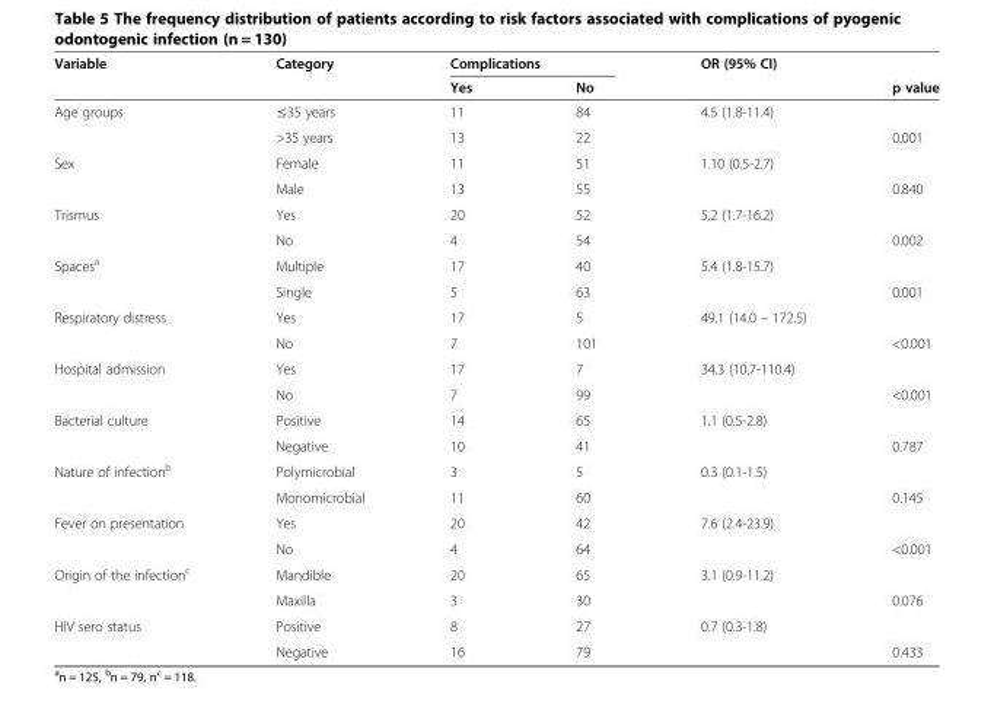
<table><thead><tr><td rowspan="2">Variable</td><td rowspan="2">Category</td><td colspan="2">Complications</td><td rowspan="2">OR (95% CI)</td><td rowspan="2">p value</td></tr><tr><td>Yes</td><td>No</td></tr></thead><tbody><tr><td rowspan="2">Age groups</td><td>≤35 years</td><td>11</td><td>84</td><td>4.5 (1.8-11.4)</td><td></td></tr><tr><td>&gt;35 years</td><td>13</td><td>22</td><td></td><td>0.001</td></tr><tr><td rowspan="2">Sex</td><td>Female</td><td>11</td><td>51</td><td>1.10 (0.5-2.7)</td><td></td></tr><tr><td>Male</td><td>13</td><td>55</td><td></td><td>0.840</td></tr><tr><td rowspan="2">Trismus</td><td>Yes</td><td>20</td><td>52</td><td>5.2 (1.7-16.2)</td><td></td></tr><tr><td>No</td><td>4</td><td>54</td><td></td><td>0.002</td></tr><tr><td rowspan="2">Spaces<sup>a</sup></td><td>Multiple</td><td>17</td><td>40</td><td>5.4 (1.8-15.7)</td><td></td></tr><tr><td>Single</td><td>5</td><td>63</td><td></td><td>0.001</td></tr><tr><td rowspan="2">Respiratory distress</td><td>Yes</td><td>17</td><td>5</td><td>49.1 (14.0 – 172.5)</td><td></td></tr><tr><td>No</td><td>7</td><td>101</td><td></td><td>&lt;0.001</td></tr><tr><td rowspan="2">Hospital admission</td><td>Yes</td><td>17</td><td>7</td><td>34.3 (10.7-110.4)</td><td></td></tr><tr><td>No</td><td>7</td><td>99</td><td></td><td>&lt;0.001</td></tr><tr><td rowspan="2">Bacterial culture</td><td>Positive</td><td>14</td><td>65</td><td>1.1 (0.5-2.8)</td><td></td></tr><tr><td>Negative</td><td>10</td><td>41</td><td></td><td>0.787</td></tr><tr><td rowspan="2">Nature of infection<sup>b</sup></td><td>Polymicrobial</td><td>3</td><td>5</td><td>0.3 (0.1-1.5)</td><td></td></tr><tr><td>Monomicrobial</td><td>11</td><td>60</td><td></td><td>0.145</td></tr><tr><td rowspan="2">Fever on presentation</td><td>Yes</td><td>20</td><td>42</td><td>7.6 (2.4-23.9)</td><td></td></tr><tr><td>No</td><td>4</td><td>64</td><td></td><td>&lt;0.001</td></tr><tr><td rowspan="2">Origin of the infection<sup>c</sup></td><td>Mandible</td><td>20</td><td>65</td><td>3.1 (0.9-11.2)</td><td></td></tr><tr><td>Maxilla</td><td>3</td><td>30</td><td></td><td>0.076</td></tr><tr><td rowspan="2">HIV sero status</td><td>Positive</td><td>8</td><td>27</td><td>0.7 (0.3-1.8)</td><td></td></tr><tr><td>Negative</td><td>16</td><td>79</td><td></td><td>0.433</td></tr></tbody></table>